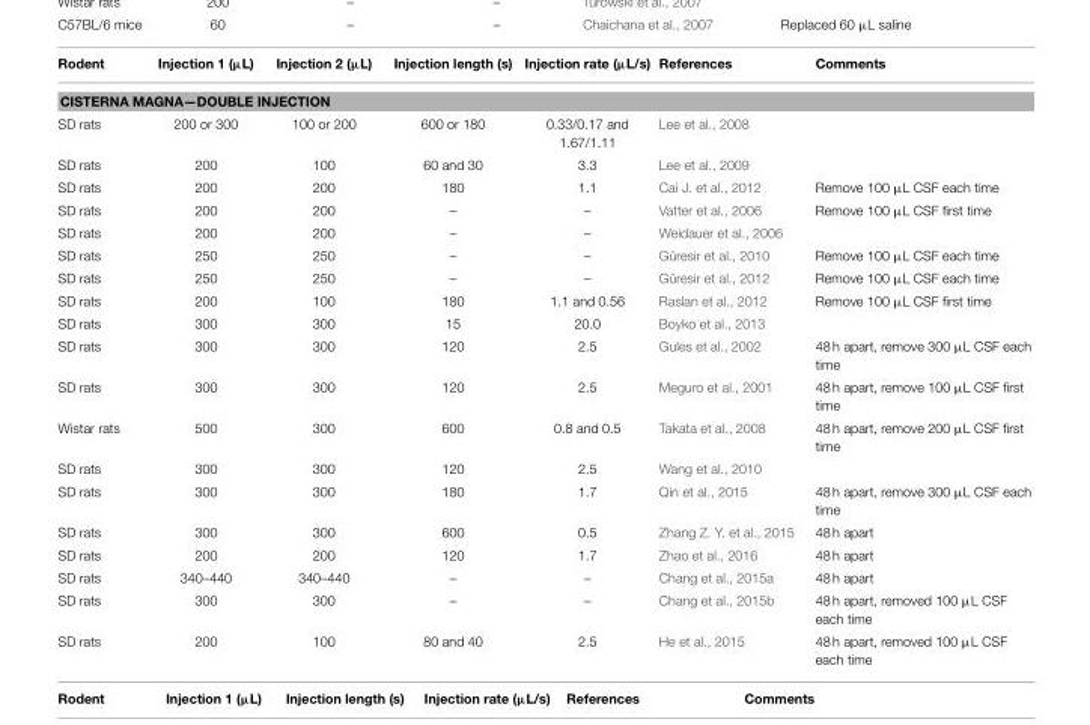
<table><thead><tr><td>Rodent</td><td>Injection 1 (µL)</td><td>Injection 2 (µL)</td><td>Injection length (s)</td><td>Injection rate (µL/s)</td><td>References</td><td>Comments</td></tr></thead><tbody><tr><td colspan="7">CISTERNA MAGNA—DOUBLE INJECTION</td></tr><tr><td>SD rats</td><td>200 or 300</td><td>100 or 200</td><td>600 or 180</td><td>0.33/0.17 and 1.67/1.11</td><td>Lee et al., 2008</td><td></td></tr><tr><td>SD rats</td><td>200</td><td>100</td><td>60 and 30</td><td>3.3</td><td>Lee et al., 2009</td><td></td></tr><tr><td>SD rats</td><td>200</td><td>200</td><td>180</td><td>1.1</td><td>Cai J. et al., 2012</td><td>Remove 100 µL CSF each time</td></tr><tr><td>SD rats</td><td>200</td><td>200</td><td>–</td><td>–</td><td>Vatter et al., 2006</td><td>Remove 100 µL CSF first time</td></tr><tr><td>SD rats</td><td>200</td><td>200</td><td>–</td><td>–</td><td>Weidauer et al., 2006</td><td></td></tr><tr><td>SD rats</td><td>250</td><td>250</td><td>–</td><td>–</td><td>Güresir et al., 2010</td><td>Remove 100 µL CSF each time</td></tr><tr><td>SD rats</td><td>250</td><td>250</td><td>–</td><td>–</td><td>Güresir et al., 2012</td><td>Remove 100 µL CSF each time</td></tr><tr><td>SD rats</td><td>200</td><td>100</td><td>180</td><td>1.1 and 0.56</td><td>Raslan et al., 2012</td><td>Remove 100 µL CSF first time</td></tr><tr><td>SD rats</td><td>300</td><td>300</td><td>15</td><td>20.0</td><td>Boyko et al., 2013</td><td></td></tr><tr><td>SD rats</td><td>300</td><td>300</td><td>120</td><td>2.5</td><td>Gules et al., 2002</td><td>48 h apart, remove 300 µL CSF each time</td></tr><tr><td>SD rats</td><td>300</td><td>300</td><td>120</td><td>2.5</td><td>Meguro et al., 2001</td><td>48 h apart, remove 100 µL CSF first time</td></tr><tr><td>Wistar rats</td><td>500</td><td>300</td><td>600</td><td>0.8 and 0.5</td><td>Takata et al., 2008</td><td>48 h apart, remove 200 µL CSF first time</td></tr><tr><td>SD rats</td><td>300</td><td>300</td><td>120</td><td>2.5</td><td>Wang et al., 2010</td><td></td></tr><tr><td>SD rats</td><td>300</td><td>300</td><td>180</td><td>1.7</td><td>Qin et al., 2015</td><td>48 h apart, remove 300 µL CSF each time</td></tr><tr><td>SD rats</td><td>300</td><td>300</td><td>600</td><td>0.5</td><td>Zhang Z. Y. et al., 2015</td><td>48 h apart</td></tr><tr><td>SD rats</td><td>200</td><td>200</td><td>120</td><td>1.7</td><td>Zhao et al., 2016</td><td>48 h apart</td></tr><tr><td>SD rats</td><td>340–440</td><td>340–440</td><td>–</td><td>–</td><td>Chang et al., 2015a</td><td>48 h apart</td></tr><tr><td>SD rats</td><td>300</td><td>300</td><td>–</td><td>–</td><td>Chang et al., 2015b</td><td>48 h apart, removed 100 µL CSF each time</td></tr><tr><td>SD rats</td><td>200</td><td>100</td><td>80 and 40</td><td>2.5</td><td>He et al., 2015</td><td>48 h apart, removed 100 µL CSF each time</td></tr></tbody></table>